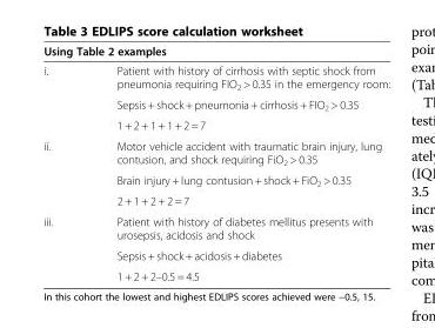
<table><thead><tr><td colspan="2">Using Table 2 examples</td></tr><tr><td>i.</td><td>Patient with history of cirrhosis with septic shock from pneumonia requiring FIO<sub>2</sub> &gt; 0.35 in the emergency room:</td></tr></thead><tbody><tr><td></td><td>Sepsis + shock + pneumonia + cirrhosis + FIO<sub>2</sub> &gt; 0.35</td></tr><tr><td></td><td>1 + 2 + 1 + 1 + 2 = 7</td></tr><tr><td rowspan="3">ii.</td><td>Motor vehicle accident with traumatic brain injury, lung contusion, and shock requiring FiO<sub>2</sub> &gt; 0.35</td></tr><tr><td>Brain injury + lung contusion + shock + FiO<sub>2</sub> &gt; 0.35</td></tr><tr><td>2 + 1 + 2 + 2 = 7</td></tr><tr><td rowspan="3">iii.</td><td>Patient with history of diabetes mellitus presents with urosepsis, acidosis and shock</td></tr><tr><td>Sepsis + shock + acidosis + diabetes</td></tr><tr><td>1 + 2 + 2–0.5 = 4.5</td></tr></tbody></table>